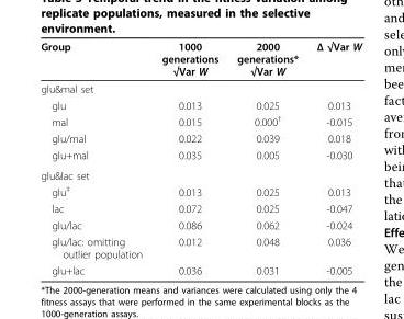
<table><thead><tr><td>Group</td><td>1000 generations √Var W</td><td>2000 generations* √Var W</td><td>Δ √Var W</td></tr></thead><tbody><tr><td colspan="4">glu&amp;mal set</td></tr><tr><td>glu</td><td>0.013</td><td>0.025</td><td>0.013</td></tr><tr><td>mal</td><td>0.015</td><td>0.000<sup>†</sup></td><td>-0.015</td></tr><tr><td>glu/mal</td><td>0.022</td><td>0.039</td><td>0.018</td></tr><tr><td>glu+mal</td><td>0.035</td><td>0.005</td><td>-0.030</td></tr><tr><td colspan="4">glu&amp;lac set</td></tr><tr><td>glu<sup>‡</sup></td><td>0.013</td><td>0.025</td><td>0.013</td></tr><tr><td>lac</td><td>0.072</td><td>0.025</td><td>-0.047</td></tr><tr><td>glu/lac</td><td>0.086</td><td>0.062</td><td>-0.024</td></tr><tr><td>glu/lac: omitting outlier population</td><td>0.012</td><td>0.048</td><td>0.036</td></tr><tr><td>glu+lac</td><td>0.036</td><td>0.031</td><td>-0.005</td></tr></tbody></table>